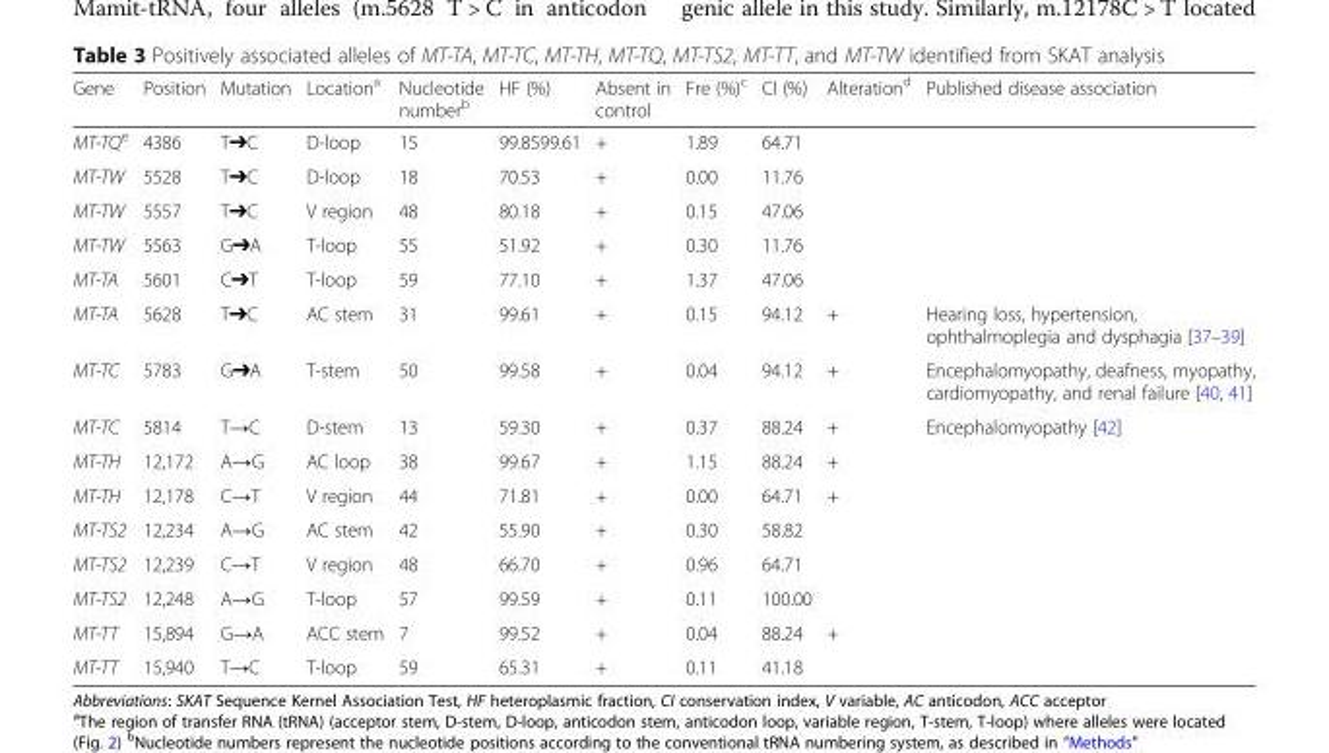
<table><thead><tr><td>Gene</td><td>Position</td><td>Mutation</td><td>Location<sup>a</sup></td><td>Nucleotide number<sup>b</sup></td><td>HF (%)</td><td>Absent in control</td><td>Fre (%)<sup>c</sup></td><td>CI (%)</td><td>Alteration<sup>d</sup></td><td>Published disease association</td></tr></thead><tbody><tr><td>MT-TQ<sup>e</sup></td><td>4386</td><td>T➔C</td><td>D-loop</td><td>15</td><td>99.8599.61</td><td>+</td><td>1.89</td><td>64.71</td><td></td><td rowspan="5"></td></tr><tr><td>MT-TW</td><td>5528</td><td>T➔C</td><td>D-loop</td><td>18</td><td>70.53</td><td>+</td><td>0.00</td><td>11.76</td><td></td></tr><tr><td>MT-TW</td><td>5557</td><td>T➔C</td><td>V region</td><td>48</td><td>80.18</td><td>+</td><td>0.15</td><td>47.06</td><td></td></tr><tr><td>MT-TW</td><td>5563</td><td>G➔A</td><td>T-loop</td><td>55</td><td>51.92</td><td>+</td><td>0.30</td><td>11.76</td><td></td></tr><tr><td>MT-TA</td><td>5601</td><td>C➔T</td><td>T-loop</td><td>59</td><td>77.10</td><td>+</td><td>1.37</td><td>47.06</td><td></td></tr><tr><td>MT-TA</td><td>5628</td><td>T➔C</td><td>AC stem</td><td>31</td><td>99.61</td><td>+</td><td>0.15</td><td>94.12</td><td>+</td><td>Hearing loss, hypertension, ophthalmoplegia and dysphagia [37–39]</td></tr><tr><td>MT-TC</td><td>5783</td><td>G➔A</td><td>T-stem</td><td>50</td><td>99.58</td><td>+</td><td>0.04</td><td>94.12</td><td>+</td><td>Encephalomyopathy, deafness, myopathy, cardiomyopathy, and renal failure [40, 41]</td></tr><tr><td>MT-TC</td><td>5814</td><td>T→C</td><td>D-stem</td><td>13</td><td>59.30</td><td>+</td><td>0.37</td><td>88.24</td><td>+</td><td>Encephalomyopathy [42]</td></tr><tr><td>MT-TH</td><td>12,172</td><td>A→G</td><td>AC loop</td><td>38</td><td>99.67</td><td>+</td><td>1.15</td><td>88.24</td><td>+</td><td rowspan="7"></td></tr><tr><td>MT-TH</td><td>12,178</td><td>C→T</td><td>V region</td><td>44</td><td>71.81</td><td>+</td><td>0.00</td><td>64.71</td><td>+</td></tr><tr><td>MT-TS2</td><td>12,234</td><td>A→G</td><td>AC stem</td><td>42</td><td>55.90</td><td>+</td><td>0.30</td><td>58.82</td><td></td></tr><tr><td>MT-TS2</td><td>12,239</td><td>C→T</td><td>V region</td><td>48</td><td>66.70</td><td>+</td><td>0.96</td><td>64.71</td><td></td></tr><tr><td>MT-TS2</td><td>12,248</td><td>A→G</td><td>T-loop</td><td>57</td><td>99.59</td><td>+</td><td>0.11</td><td>100.00</td><td></td></tr><tr><td>MT-TT</td><td>15,894</td><td>G→A</td><td>ACC stem</td><td>7</td><td>99.52</td><td>+</td><td>0.04</td><td>88.24</td><td>+</td></tr><tr><td>MT-TT</td><td>15,940</td><td>T→C</td><td>T-loop</td><td>59</td><td>65.31</td><td>+</td><td>0.11</td><td>41.18</td><td></td></tr></tbody></table>